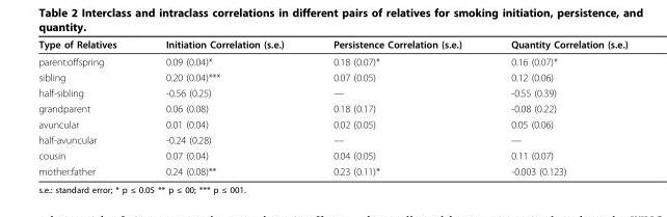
<table><thead><tr><td>Type of Relatives</td><td>Initiation Correlation (s.e.)</td><td>Persistence Correlation (s.e.)</td><td>Quantity Correlation (s.e.)</td></tr></thead><tbody><tr><td>parent:offspring</td><td>0.09 (0.04)*</td><td>0.18 (0.07)*</td><td>0.16 (0.07)*</td></tr><tr><td>sibling</td><td>0.20 (0.04)***</td><td>0.07 (0.05)</td><td>0.12 (0.06)</td></tr><tr><td>half-sibling</td><td>-0.56 (0.25)</td><td>—</td><td>-0.55 (0.39)</td></tr><tr><td>grandparent</td><td>0.06 (0.08)</td><td>0.18 (0.17)</td><td>-0.08 (0.22)</td></tr><tr><td>avuncular</td><td>0.01 (0.04)</td><td>0.02 (0.05)</td><td>0.05 (0.06)</td></tr><tr><td>half-avuncular</td><td>-0.24 (0.28)</td><td>—</td><td>—</td></tr><tr><td>cousin</td><td>0.07 (0.04)</td><td>0.04 (0.05)</td><td>0.11 (0.07)</td></tr><tr><td>mother:father</td><td>0.24 (0.08)**</td><td>0.23 (0.11)*</td><td>-0.003 (0.123)</td></tr></tbody></table>